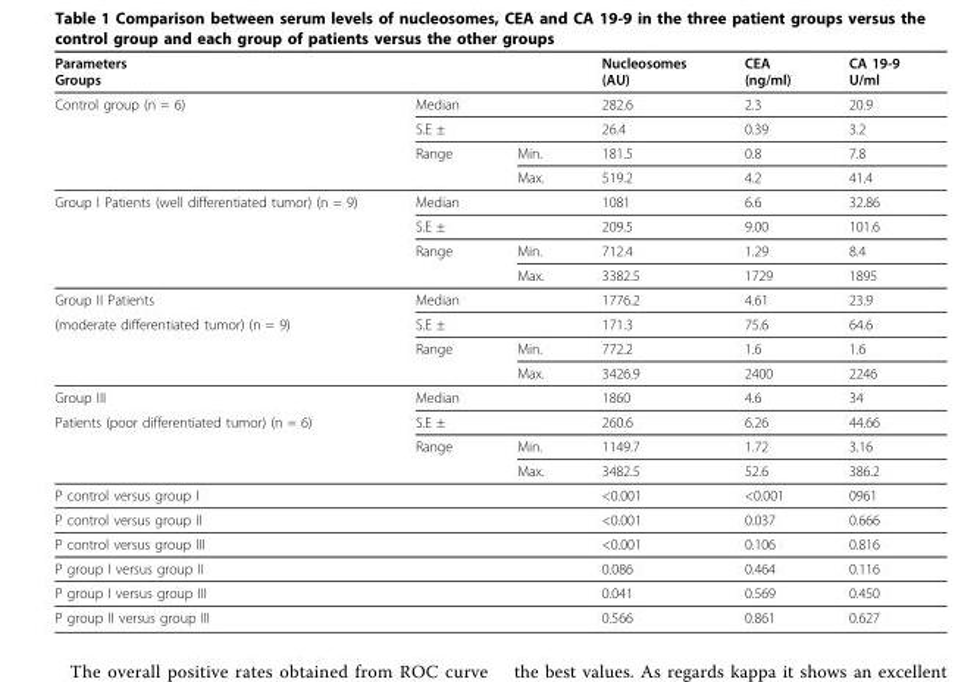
<table><thead><tr><td colspan="3">Parameters Groups</td><td rowspan="2">Nucleosomes (AU) 282.6</td><td rowspan="2">CEA (ng/ml) 2.3</td><td rowspan="2">CA 19-9 U/ml 20.9</td></tr><tr><td>Control group (n = 6)</td><td>Median</td><td></td></tr></thead><tbody><tr><td></td><td>S.E ±</td><td></td><td>26.4</td><td>0.39</td><td>3.2</td></tr><tr><td></td><td>Range</td><td>Min.</td><td>181.5</td><td>0.8</td><td>7.8</td></tr><tr><td></td><td></td><td>Max.</td><td>519.2</td><td>4.2</td><td>41.4</td></tr><tr><td rowspan="4">Group I Patients (well differentiated tumor) (n = 9)</td><td>Median</td><td></td><td>1081</td><td>6.6</td><td>32.86</td></tr><tr><td>S.E ±</td><td></td><td>209.5</td><td>9.00</td><td>101.6</td></tr><tr><td>Range</td><td>Min.</td><td>712.4</td><td>1.29</td><td>8.4</td></tr><tr><td></td><td>Max.</td><td>3382.5</td><td>1729</td><td>1895</td></tr><tr><td>Group II Patients</td><td>Median</td><td></td><td>1776.2</td><td>4.61</td><td>23.9</td></tr><tr><td rowspan="3">(moderate differentiated tumor) (n = 9)</td><td>S.E ±</td><td></td><td>171.3</td><td>75.6</td><td>64.6</td></tr><tr><td>Range</td><td>Min.</td><td>772.2</td><td>1.6</td><td>1.6</td></tr><tr><td></td><td>Max.</td><td>3426.9</td><td>2400</td><td>2246</td></tr><tr><td>Group III</td><td>Median</td><td></td><td>1860</td><td>4.6</td><td>34</td></tr><tr><td rowspan="3">Patients (poor differentiated tumor) (n = 6)</td><td>S.E ±</td><td></td><td>260.6</td><td>6.26</td><td>44.66</td></tr><tr><td>Range</td><td>Min.</td><td>1149.7</td><td>1.72</td><td>3.16</td></tr><tr><td></td><td>Max.</td><td>3482.5</td><td>52.6</td><td>386.2</td></tr><tr><td colspan="3">P control versus group I</td><td>&lt;0.001</td><td>&lt;0.001</td><td>0961</td></tr><tr><td colspan="3">P control versus group II</td><td>&lt;0.001</td><td>0.037</td><td>0.666</td></tr><tr><td colspan="3">P control versus group III</td><td>&lt;0.001</td><td>0.106</td><td>0.816</td></tr><tr><td colspan="3">P group I versus group II</td><td>0.086</td><td>0.464</td><td>0.116</td></tr><tr><td colspan="3">P group I versus group III</td><td>0.041</td><td>0.569</td><td>0.450</td></tr><tr><td colspan="3">P group II versus group III</td><td>0.566</td><td>0.861</td><td>0.627</td></tr></tbody></table>